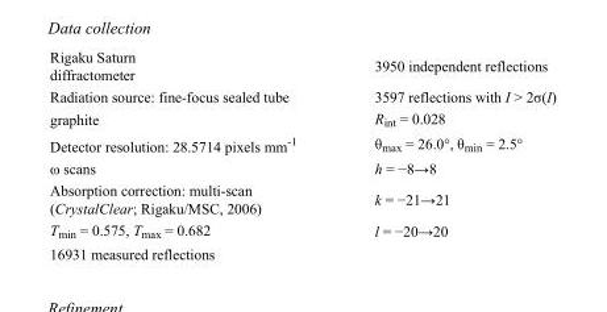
<table><tbody><tr><td>Rigaku Saturn diffractometer</td><td>3950 independent reflections</td></tr><tr><td>Radiation source: fine-focus sealed tube</td><td>3597 reflections with I &gt; 2σ(I)</td></tr><tr><td>graphite</td><td>R<sub>int</sub> = 0.028</td></tr><tr><td>Detector resolution: 28.5714 pixels mm<sup>-1</sup></td><td>θ<sub>max</sub> = 26.0°, θ<sub>min</sub> = 2.5°</td></tr><tr><td>ω scans</td><td>h = −8→8</td></tr><tr><td>Absorption correction: multi-scan (CrystalClear; Rigaku/MSC, 2006)</td><td>k = −21→21</td></tr><tr><td>T<sub>min</sub> = 0.575, T<sub>max</sub> = 0.682</td><td>l = −20→20</td></tr><tr><td>16931 measured reflections</td><td></td></tr></tbody></table>